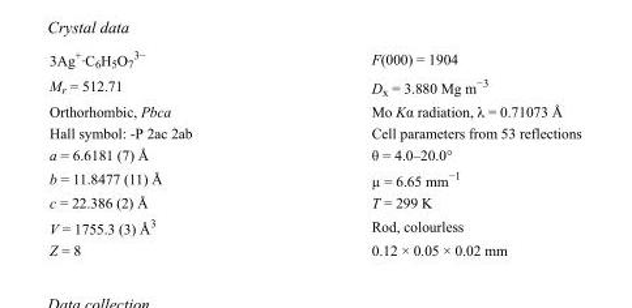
<table><tbody><tr><td>3Ag<sup>+</sup>·C<sub>6</sub>H<sub>5</sub>O<sub>7</sub> <sup>3−</sup></td><td>F(000) = 1904</td></tr><tr><td>M<sub>r</sub> = 512.71</td><td>D<sub>x</sub> = 3.880 Mg m<sup>−3</sup></td></tr><tr><td>Orthorhombic, Pbca</td><td>Mo Kα radiation, λ = 0.71073 Å</td></tr><tr><td>Hall symbol: -P 2ac 2ab</td><td>Cell parameters from 53 reflections</td></tr><tr><td>a = 6.6181 (7) Å</td><td>θ = 4.0–20.0°</td></tr><tr><td>b = 11.8477 (11) Å</td><td>µ = 6.65 mm<sup>−1</sup></td></tr><tr><td>c = 22.386 (2) Å</td><td>T = 299 K</td></tr><tr><td>V = 1755.3 (3) Å<sup>3</sup></td><td>Rod, colourless</td></tr><tr><td>Z = 8</td><td>0.12 × 0.05 × 0.02 mm</td></tr></tbody></table>